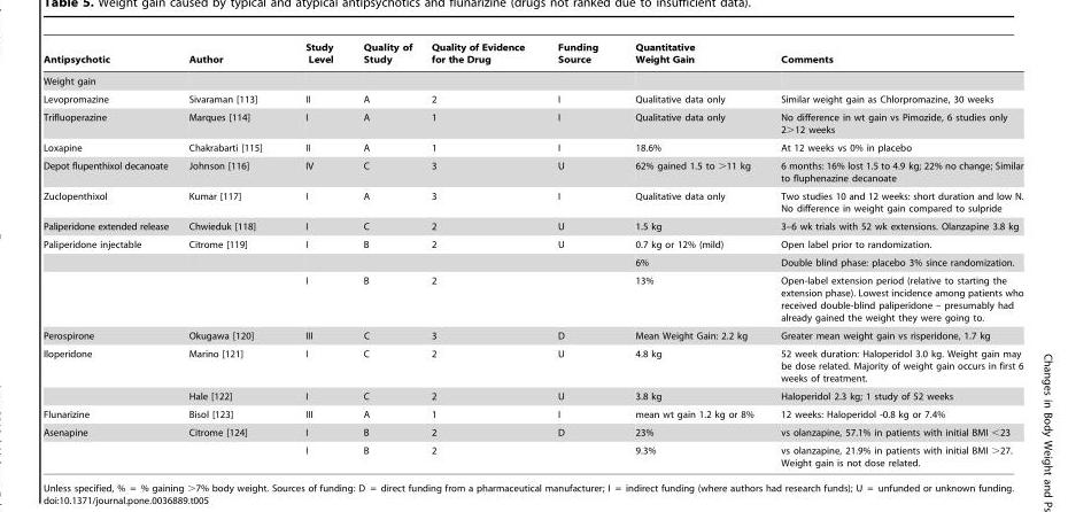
<table><thead><tr><td>Antipsychotic</td><td>Author</td><td>Study Level</td><td>Quality of Study</td><td>Quality of Evidence for the Drug</td><td>Funding Source</td><td>Quantitative Weight Gain</td><td>Comments</td></tr></thead><tbody><tr><td colspan="8">Weight gain</td></tr><tr><td>Levopromazine</td><td>Sivaraman [113]</td><td>II</td><td>A</td><td>2</td><td>I</td><td>Qualitative data only</td><td>Similar weight gain as Chlorpromazine, 30 weeks</td></tr><tr><td>Trifluoperazine</td><td>Marques [114]</td><td>I</td><td>A</td><td>1</td><td>I</td><td>Qualitative data only</td><td>No difference in wt gain vs Pimozide, 6 studies only 2&gt;12 weeks</td></tr><tr><td>Loxapine</td><td>Chakrabarti [115]</td><td>II</td><td>A</td><td>1</td><td>I</td><td>18.6%</td><td>At 12 weeks vs 0% in placebo</td></tr><tr><td>Depot flupenthixol decanoate</td><td>Johnson [116]</td><td>IV</td><td>C</td><td>3</td><td>U</td><td>62% gained 1.5 to &gt;11 kg</td><td>6 months: 16% lost 1.5 to 4.9 kg; 22% no change; Similar to fluphenazine decanoate</td></tr><tr><td>Zuclopenthixol</td><td>Kumar [117]</td><td>I</td><td>A</td><td>3</td><td>I</td><td>Qualitative data only</td><td>Two studies 10 and 12 weeks: short duration and low N. No difference in weight gain compared to sulpride</td></tr><tr><td>Paliperidone extended release</td><td>Chwieduk [118]</td><td>I</td><td>C</td><td>2</td><td>U</td><td>1.5 kg</td><td>3–6 wk trials with 52 wk extensions. Olanzapine 3.8 kg</td></tr><tr><td rowspan="3">Paliperidone injectable</td><td>Citrome [119]</td><td>I</td><td>B</td><td>2</td><td>U</td><td>0.7 kg or 12% (mild)</td><td>Open label prior to randomization.</td></tr><tr><td></td><td></td><td></td><td></td><td></td><td>6%</td><td>Double blind phase: placebo 3% since randomization.</td></tr><tr><td></td><td>I</td><td>B</td><td>2</td><td></td><td>13%</td><td>Open-label extension period (relative to starting the extension phase). Lowest incidence among patients who received double-blind paliperidone – presumably had already gained the weight they were going to.</td></tr><tr><td>Perospirone</td><td>Okugawa [120]</td><td>III</td><td>C</td><td>3</td><td>D</td><td>Mean Weight Gain: 2.2 kg</td><td>Greater mean weight gain vs risperidone, 1.7 kg</td></tr><tr><td rowspan="2">Iloperidone</td><td>Marino [121]</td><td>I</td><td>C</td><td>2</td><td>U</td><td>4.8 kg</td><td>52 week duration: Haloperidol 3.0 kg. Weight gain may be dose related. Majority of weight gain occurs in first 6 weeks of treatment.</td></tr><tr><td>Hale [122]</td><td>I</td><td>C</td><td>2</td><td>U</td><td>3.8 kg</td><td>Haloperidol 2.3 kg; 1 study of 52 weeks</td></tr><tr><td>Flunarizine</td><td>Bisol [123]</td><td>III</td><td>A</td><td>1</td><td>I</td><td>mean wt gain 1.2 kg or 8%</td><td>12 weeks: Haloperidol -0.8 kg or 7.4%</td></tr><tr><td rowspan="2">Asenapine</td><td>Citrome [124]</td><td>I</td><td>B</td><td>2</td><td>D</td><td>23%</td><td>vs olanzapine, 57.1% in patients with initial BMI &lt;23</td></tr><tr><td></td><td>I</td><td>B</td><td>2</td><td></td><td>9.3%</td><td>vs olanzapine, 21.9% in patients with initial BMI &gt;27. Weight gain is not dose related.</td></tr></tbody></table>